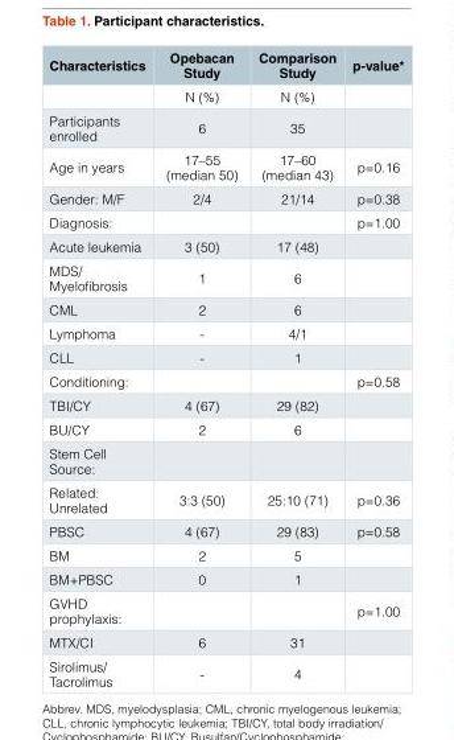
<table><thead><tr><td>Characteristics</td><td>Opebacan Study</td><td>Comparison Study</td><td>p-value*</td></tr></thead><tbody><tr><td></td><td>N (%)</td><td>N (%)</td><td></td></tr><tr><td>Participants enrolled</td><td>6</td><td>35</td><td></td></tr><tr><td>Age in years</td><td>17–55 (median 50)</td><td>17–60 (median 43)</td><td>p=0.16</td></tr><tr><td>Gender: M/F</td><td>2/4</td><td>21/14</td><td>p=0.38</td></tr><tr><td>Diagnosis:</td><td></td><td></td><td>p=1.00</td></tr><tr><td>Acute leukemia</td><td>3 (50)</td><td>17 (48)</td><td></td></tr><tr><td>MDS/ Myelofibrosis</td><td>1</td><td>6</td><td></td></tr><tr><td>CML</td><td>2</td><td>6</td><td></td></tr><tr><td>Lymphoma</td><td>-</td><td>4/1</td><td></td></tr><tr><td>CLL</td><td>-</td><td>1</td><td></td></tr><tr><td>Conditioning:</td><td></td><td></td><td>p=0.58</td></tr><tr><td>TBI/CY</td><td>4 (67)</td><td>29 (82)</td><td></td></tr><tr><td>BU/CY</td><td>2</td><td>6</td><td></td></tr><tr><td colspan="4">Stem Cell Source:</td></tr><tr><td>Related: Unrelated</td><td>3:3 (50)</td><td>25:10 (71)</td><td>p=0.36</td></tr><tr><td>PBSC</td><td>4 (67)</td><td>29 (83)</td><td>p=0.58</td></tr><tr><td>BM</td><td>2</td><td>5</td><td></td></tr><tr><td>BM+PBSC</td><td>0</td><td>1</td><td></td></tr><tr><td>GVHD prophylaxis:</td><td></td><td></td><td>p=1.00</td></tr><tr><td>MTX/CI</td><td>6</td><td>31</td><td></td></tr><tr><td>Sirolimus/ Tacrolimus</td><td>-</td><td>4</td><td></td></tr></tbody></table>